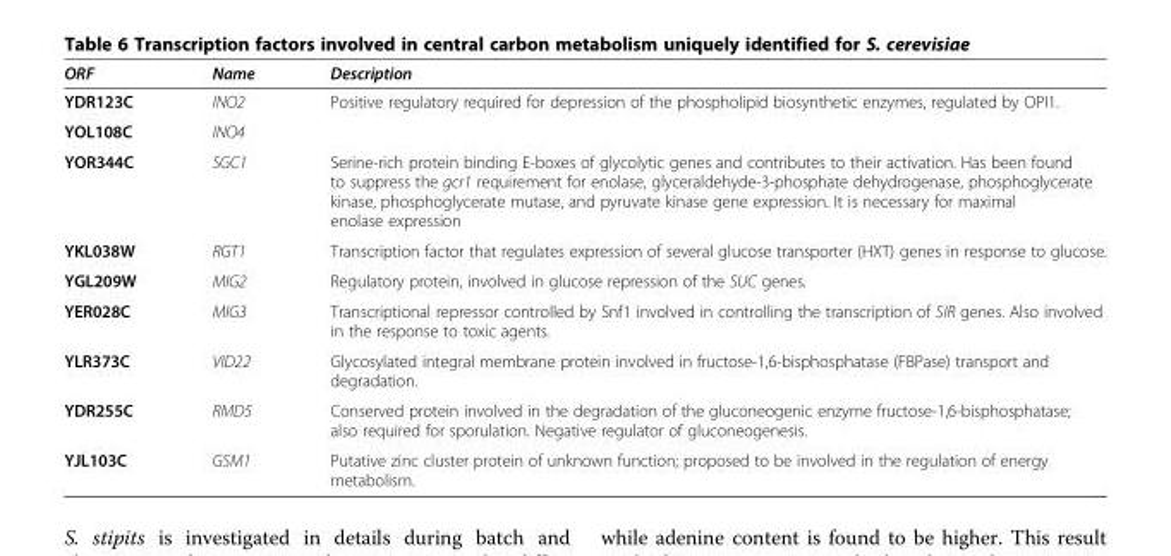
<table><thead><tr><td>ORF</td><td>Name</td><td>Description</td></tr></thead><tbody><tr><td>YDR123C</td><td>INO2</td><td rowspan="2">Positive regulatory required for depression of the phospholipid biosynthetic enzymes, regulated by OPI1.</td></tr><tr><td>YOL108C</td><td>INO4</td></tr><tr><td>YOR344C</td><td>SGC1</td><td>Serine-rich protein binding E-boxes of glycolytic genes and contributes to their activation. Has been found to suppress the gcr1 requirement for enolase, glyceraldehyde-3-phosphate dehydrogenase, phosphoglycerate kinase, phosphoglycerate mutase, and pyruvate kinase gene expression. It is necessary for maximal enolase expression</td></tr><tr><td>YKL038W</td><td>RGT1</td><td>Transcription factor that regulates expression of several glucose transporter (HXT) genes in response to glucose.</td></tr><tr><td>YGL209W</td><td>MIG2</td><td>Regulatory protein, involved in glucose repression of the SUC genes.</td></tr><tr><td>YER028C</td><td>MIG3</td><td>Transcriptional repressor controlled by Snf1 involved in controlling the transcription of SIR genes. Also involved in the response to toxic agents.</td></tr><tr><td>YLR373C</td><td>VID22</td><td>Glycosylated integral membrane protein involved in fructose-1,6-bisphosphatase (FBPase) transport and degradation.</td></tr><tr><td>YDR255C</td><td>RMD5</td><td>Conserved protein involved in the degradation of the gluconeogenic enzyme fructose-1,6-bisphosphatase; also required for sporulation. Negative regulator of gluconeogenesis.</td></tr><tr><td>YJL103C</td><td>GSM1</td><td>Putative zinc cluster protein of unknown function; proposed to be involved in the regulation of energy metabolism.</td></tr></tbody></table>